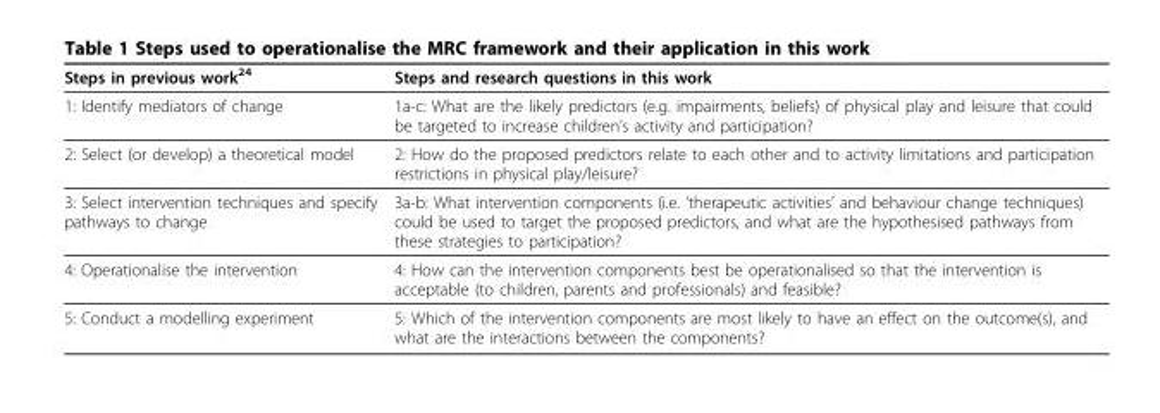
<table><thead><tr><td>Steps in previous work<sup>24</sup></td><td>Steps and research questions in this work</td></tr></thead><tbody><tr><td>1: Identify mediators of change</td><td>1a-c: What are the likely predictors (e.g. impairments, beliefs) of physical play and leisure that could be targeted to increase children’s activity and participation?</td></tr><tr><td>2: Select (or develop) a theoretical model</td><td>2: How do the proposed predictors relate to each other and to activity limitations and participation restrictions in physical play/leisure?</td></tr><tr><td>3: Select intervention techniques and specify pathways to change</td><td>3a-b: What intervention components (i.e. ‘therapeutic activities’ and behaviour change techniques) could be used to target the proposed predictors, and what are the hypothesised pathways from these strategies to participation?</td></tr><tr><td>4: Operationalise the intervention</td><td>4: How can the intervention components best be operationalised so that the intervention is acceptable (to children, parents and professionals) and feasible?</td></tr><tr><td>5: Conduct a modelling experiment</td><td>5: Which of the intervention components are most likely to have an effect on the outcome(s), and what are the interactions between the components?</td></tr></tbody></table>